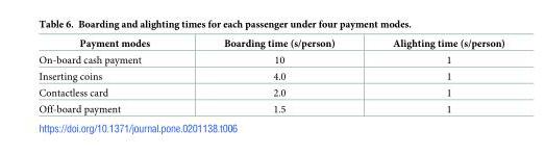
<table><thead><tr><td>Payment modes</td><td>Boarding time (s/person)</td><td>Alighting time (s/person)</td></tr></thead><tbody><tr><td>On-board cash payment</td><td>10</td><td>1</td></tr><tr><td>Inserting coins</td><td>4.0</td><td>1</td></tr><tr><td>Contactless card</td><td>2.0</td><td>1</td></tr><tr><td>Off-board payment</td><td>1.5</td><td>1</td></tr></tbody></table>